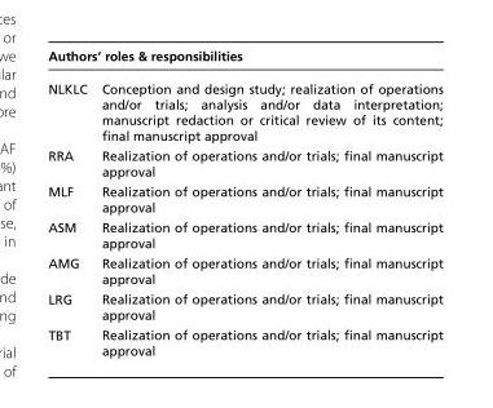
<table><thead><tr><td colspan="2">Authors’ roles &amp; responsibilities</td></tr><tr><td>NLKLC</td><td>Conception and design study; realization of operations and/or trials; analysis and/or data interpretation; manuscript redaction or critical review of its content; final manuscript approval</td></tr></thead><tbody><tr><td>RRA</td><td>Realization of operations and/or trials; final manuscript approval</td></tr><tr><td>MLF</td><td>Realization of operations and/or trials; final manuscript approval</td></tr><tr><td>ASM</td><td>Realization of operations and/or trials; final manuscript approval</td></tr><tr><td>AMG</td><td>Realization of operations and/or trials; final manuscript approval</td></tr><tr><td>LRG</td><td>Realization of operations and/or trials; final manuscript approval</td></tr><tr><td>TBT</td><td>Realization of operations and/or trials; final manuscript approval</td></tr></tbody></table>